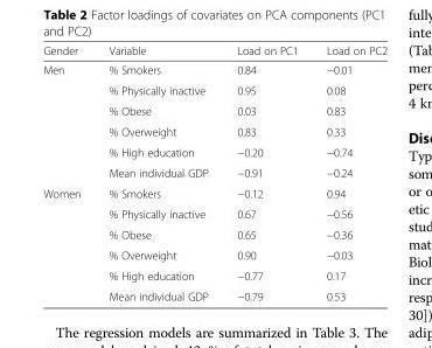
<table><thead><tr><td>Gender</td><td>Variable</td><td>Load on PC1</td><td>Load on PC2</td></tr></thead><tbody><tr><td rowspan="6">Men</td><td>% Smokers</td><td>0.84</td><td>−0.01</td></tr><tr><td>% Physically inactive</td><td>0.95</td><td>0.08</td></tr><tr><td>% Obese</td><td>0.03</td><td>0.83</td></tr><tr><td>% Overweight</td><td>0.83</td><td>0.33</td></tr><tr><td>% High education</td><td>−0.20</td><td>−0.74</td></tr><tr><td>Mean individual GDP</td><td>−0.91</td><td>−0.24</td></tr><tr><td rowspan="6">Women</td><td>% Smokers</td><td>−0.12</td><td>0.94</td></tr><tr><td>% Physically inactive</td><td>0.67</td><td>−0.56</td></tr><tr><td>% Obese</td><td>0.65</td><td>−0.36</td></tr><tr><td>% Overweight</td><td>0.90</td><td>−0.03</td></tr><tr><td>% High education</td><td>−0.77</td><td>0.17</td></tr><tr><td>Mean individual GDP</td><td>−0.79</td><td>0.53</td></tr></tbody></table>